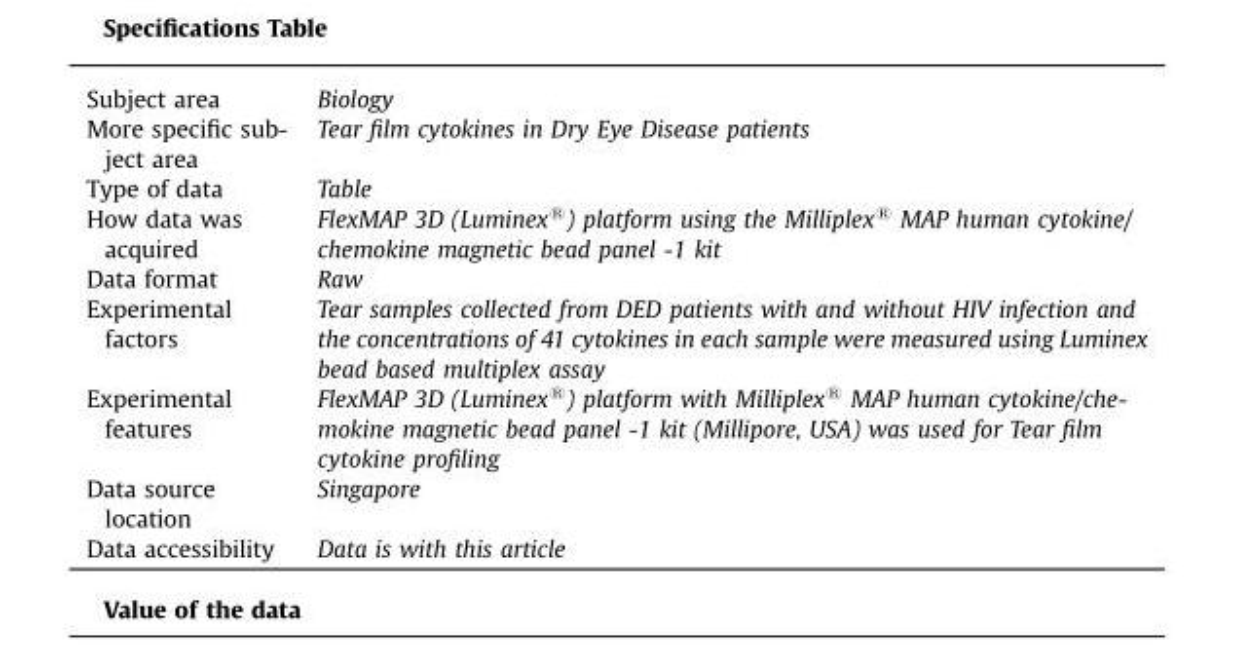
<table><tbody><tr><td>Subject area</td><td>Biology</td></tr><tr><td>More specific sub- ject area</td><td>Tear film cytokines in Dry Eye Disease patients</td></tr><tr><td>Type of data</td><td>Table</td></tr><tr><td>How data was acquired</td><td>FlexMAP 3D (Luminex®) platform using the Milliplex® MAP human cytokine/ chemokine magnetic bead panel -1 kit</td></tr><tr><td>Data format</td><td>Raw</td></tr><tr><td>Experimental factors</td><td>Tear samples collected from DED patients with and without HIV infection and the concentrations of 41 cytokines in each sample were measured using Luminex bead based multiplex assay</td></tr><tr><td>Experimental features</td><td>FlexMAP 3D (Luminexs) platform with Milliplexs MAP human cytokine/che- mokine magnetic bead panel -1 kit (Millipore, USA) was used for Tear film cytokine profiling</td></tr><tr><td>Data source location</td><td>Singapore</td></tr><tr><td>Data accessibility</td><td>Data is with this article</td></tr></tbody></table>